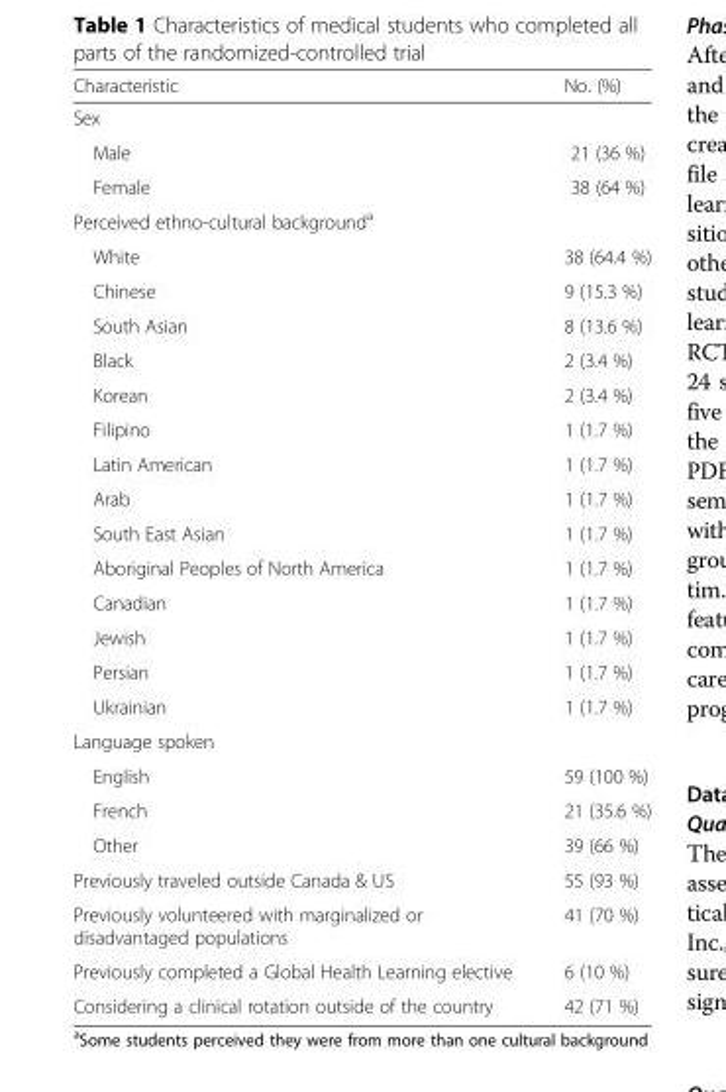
<table><thead><tr><td>Characteristic</td><td>No. (%)</td></tr></thead><tbody><tr><td colspan="2">Sex</td></tr><tr><td>Male</td><td>21 (36 %)</td></tr><tr><td>Female</td><td>38 (64 %)</td></tr><tr><td colspan="2">Perceived ethno-cultural background<sup>a</sup></td></tr><tr><td>White</td><td>38 (64.4 %)</td></tr><tr><td>Chinese</td><td>9 (15.3 %)</td></tr><tr><td>South Asian</td><td>8 (13.6 %)</td></tr><tr><td>Black</td><td>2 (3.4 %)</td></tr><tr><td>Korean</td><td>2 (3.4 %)</td></tr><tr><td>Filipino</td><td>1 (1.7 %)</td></tr><tr><td>Latin American</td><td>1 (1.7 %)</td></tr><tr><td>Arab</td><td>1 (1.7 %)</td></tr><tr><td>South East Asian</td><td>1 (1.7 %)</td></tr><tr><td>Aboriginal Peoples of North America</td><td>1 (1.7 %)</td></tr><tr><td>Canadian</td><td>1 (1.7 %)</td></tr><tr><td>Jewish</td><td>1 (1.7 %)</td></tr><tr><td>Persian</td><td>1 (1.7 %)</td></tr><tr><td>Ukrainian</td><td>1 (1.7 %)</td></tr><tr><td colspan="2">Language spoken</td></tr><tr><td>English</td><td>59 (100 %)</td></tr><tr><td>French</td><td>21 (35.6 %)</td></tr><tr><td>Other</td><td>39 (66 %)</td></tr><tr><td>Previously traveled outside Canada &amp; US</td><td>55 (93 %)</td></tr><tr><td>Previously volunteered with marginalized or disadvantaged populations</td><td>41 (70 %)</td></tr><tr><td>Previously completed a Global Health Learning elective</td><td>6 (10 %)</td></tr><tr><td>Considering a clinical rotation outside of the country</td><td>42 (71 %)</td></tr></tbody></table>